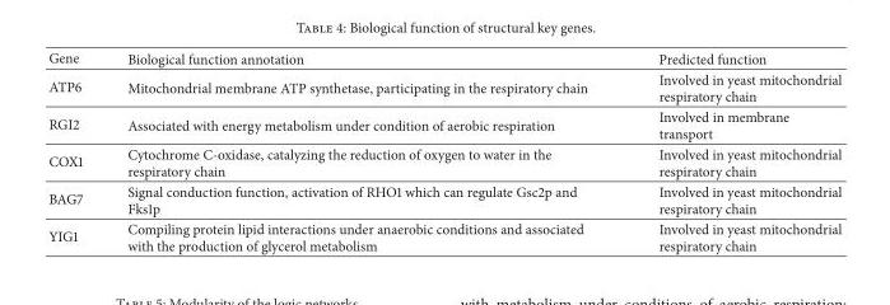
<table><thead><tr><td>Gene</td><td>Biological function annotation</td><td>Predicted function</td></tr></thead><tbody><tr><td>ATP6</td><td>Mitochondrial membrane ATP synthetase, participating in the respiratory chain</td><td>Involved in yeast mitochondrial respiratory chain</td></tr><tr><td>RGI2</td><td>Associated with energy metabolism under condition of aerobic respiration</td><td>Involved in membrane transport</td></tr><tr><td>COX1</td><td>Cytochrome C-oxidase, catalyzing the reduction of oxygen to water in the respiratory chain</td><td>Involved in yeast mitochondrial respiratory chain</td></tr><tr><td>BAG7</td><td>Signal conduction function, activation of RHO1 which can regulate Gsc2p and Fks1p</td><td>Involved in yeast mitochondrial respiratory chain</td></tr><tr><td>YIG1</td><td>Compiling protein lipid interactions under anaerobic conditions and associated with the production of glycerol metabolism</td><td>Involved in yeast mitochondrial respiratory chain</td></tr></tbody></table>